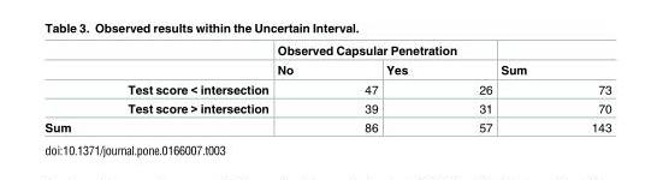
<table><thead><tr><td rowspan="2"></td><td colspan="2">Observed Capsular Penetration</td><td rowspan="2">Sum</td></tr><tr><td>No</td><td>Yes</td></tr></thead><tbody><tr><td>Test score &lt; intersection</td><td>47</td><td>26</td><td>73</td></tr><tr><td>Test score &gt; intersection</td><td>39</td><td>31</td><td>70</td></tr><tr><td>Sum</td><td>86</td><td>57</td><td>143</td></tr></tbody></table>